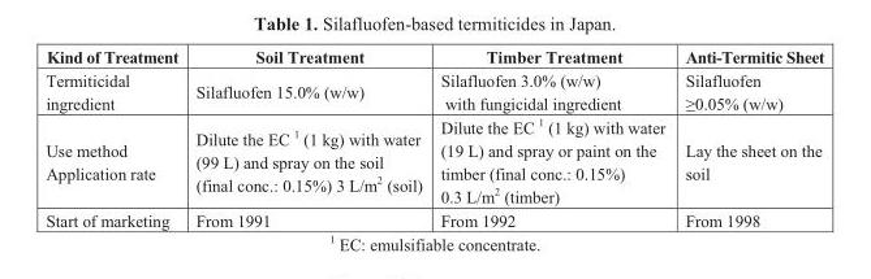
<table><thead><tr><td>Kind of Treatment</td><td>Soil Treatment</td><td>Timber Treatment</td><td>Anti-Termitic Sheet</td></tr></thead><tbody><tr><td>Termiticidal ingredient</td><td>Silafluofen 15.0% (w/w)</td><td>Silafluofen 3.0% (w/w) with fungicidal ingredient</td><td>Silafluofen ≥0.05% (w/w)</td></tr><tr><td>Use method Application rate</td><td>Dilute the EC 1 (1 kg) with water (99 L) and spray on the soil (final conc.: 0.15%) 3 L/m<sup>2</sup> (soil)</td><td>Dilute the EC 1 (1 kg) with water (19 L) and spray or paint on the timber (final conc.: 0.15%) 0.3 L/m<sup>2</sup> (timber)</td><td>Lay the sheet on the soil</td></tr><tr><td>Start of marketing</td><td>From 1991</td><td>From 1992</td><td>From 1998</td></tr></tbody></table>